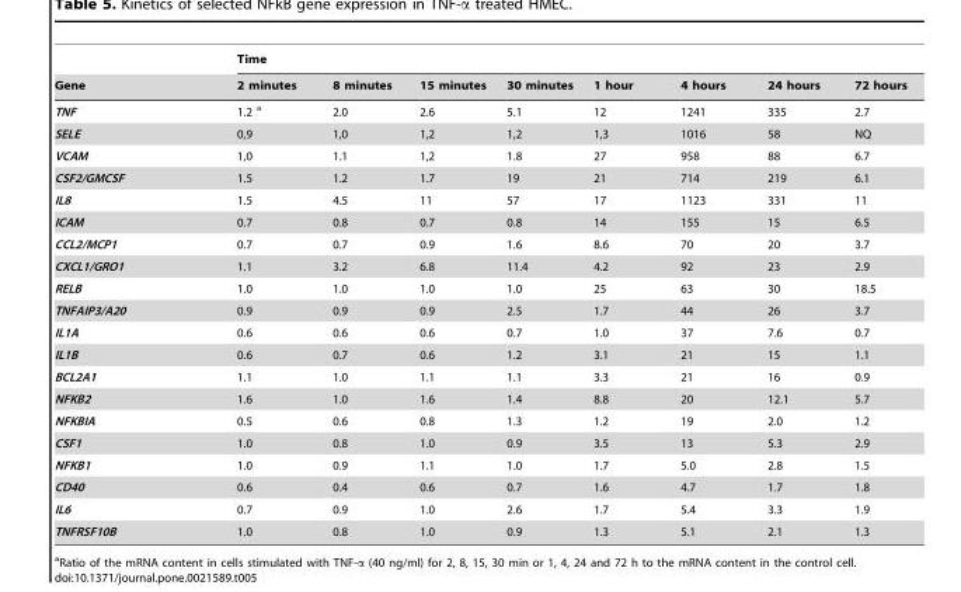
<table><thead><tr><td rowspan="2">Gene</td><td colspan="8">Time</td></tr><tr><td>2 minutes</td><td>8 minutes</td><td>15 minutes</td><td>30 minutes</td><td>1 hour</td><td>4 hours</td><td>24 hours</td><td>72 hours</td></tr></thead><tbody><tr><td>TNF</td><td>1.2 a</td><td>2.0</td><td>2.6</td><td>5.1</td><td>12</td><td>1241</td><td>335</td><td>2.7</td></tr><tr><td>SELE</td><td>0,9</td><td>1,0</td><td>1,2</td><td>1,2</td><td>1,3</td><td>1016</td><td>58</td><td>NQ</td></tr><tr><td>VCAM</td><td>1,0</td><td>1.1</td><td>1,2</td><td>1.8</td><td>27</td><td>958</td><td>88</td><td>6.7</td></tr><tr><td>CSF2/GMCSF</td><td>1.5</td><td>1.2</td><td>1.7</td><td>19</td><td>21</td><td>714</td><td>219</td><td>6.1</td></tr><tr><td>IL8</td><td>1.5</td><td>4.5</td><td>11</td><td>57</td><td>17</td><td>1123</td><td>331</td><td>11</td></tr><tr><td>ICAM</td><td>0.7</td><td>0.8</td><td>0.7</td><td>0.8</td><td>14</td><td>155</td><td>15</td><td>6.5</td></tr><tr><td>CCL2/MCP1</td><td>0.7</td><td>0.7</td><td>0.9</td><td>1.6</td><td>8.6</td><td>70</td><td>20</td><td>3.7</td></tr><tr><td>CXCL1/GRO1</td><td>1.1</td><td>3.2</td><td>6.8</td><td>11.4</td><td>4.2</td><td>92</td><td>23</td><td>2.9</td></tr><tr><td>RELB</td><td>1.0</td><td>1.0</td><td>1.0</td><td>1.0</td><td>25</td><td>63</td><td>30</td><td>18.5</td></tr><tr><td>TNFAIP3/A20</td><td>0.9</td><td>0.9</td><td>0.9</td><td>2.5</td><td>1.7</td><td>44</td><td>26</td><td>3.7</td></tr><tr><td>IL1A</td><td>0.6</td><td>0.6</td><td>0.6</td><td>0.7</td><td>1.0</td><td>37</td><td>7.6</td><td>0.7</td></tr><tr><td>IL1B</td><td>0.6</td><td>0.7</td><td>0.6</td><td>1.2</td><td>3.1</td><td>21</td><td>15</td><td>1.1</td></tr><tr><td>BCL2A1</td><td>1.1</td><td>1.0</td><td>1.1</td><td>1.1</td><td>3.3</td><td>21</td><td>16</td><td>0.9</td></tr><tr><td>NFKB2</td><td>1.6</td><td>1.0</td><td>1.6</td><td>1.4</td><td>8.8</td><td>20</td><td>12.1</td><td>5.7</td></tr><tr><td>NFKBIA</td><td>0.5</td><td>0.6</td><td>0.8</td><td>1.3</td><td>1.2</td><td>19</td><td>2.0</td><td>1.2</td></tr><tr><td>CSF1</td><td>1.0</td><td>0.8</td><td>1.0</td><td>0.9</td><td>3.5</td><td>13</td><td>5.3</td><td>2.9</td></tr><tr><td>NFKB1</td><td>1.0</td><td>0.9</td><td>1.1</td><td>1.0</td><td>1.7</td><td>5.0</td><td>2.8</td><td>1.5</td></tr><tr><td>CD40</td><td>0.6</td><td>0.4</td><td>0.6</td><td>0.7</td><td>1.6</td><td>4.7</td><td>1.7</td><td>1.8</td></tr><tr><td>IL6</td><td>0.7</td><td>0.9</td><td>1.0</td><td>2.6</td><td>1.7</td><td>5.4</td><td>3.3</td><td>1.9</td></tr><tr><td>TNFRSF10B</td><td>1.0</td><td>0.8</td><td>1.0</td><td>0.9</td><td>1.3</td><td>5.1</td><td>2.1</td><td>1.3</td></tr></tbody></table>